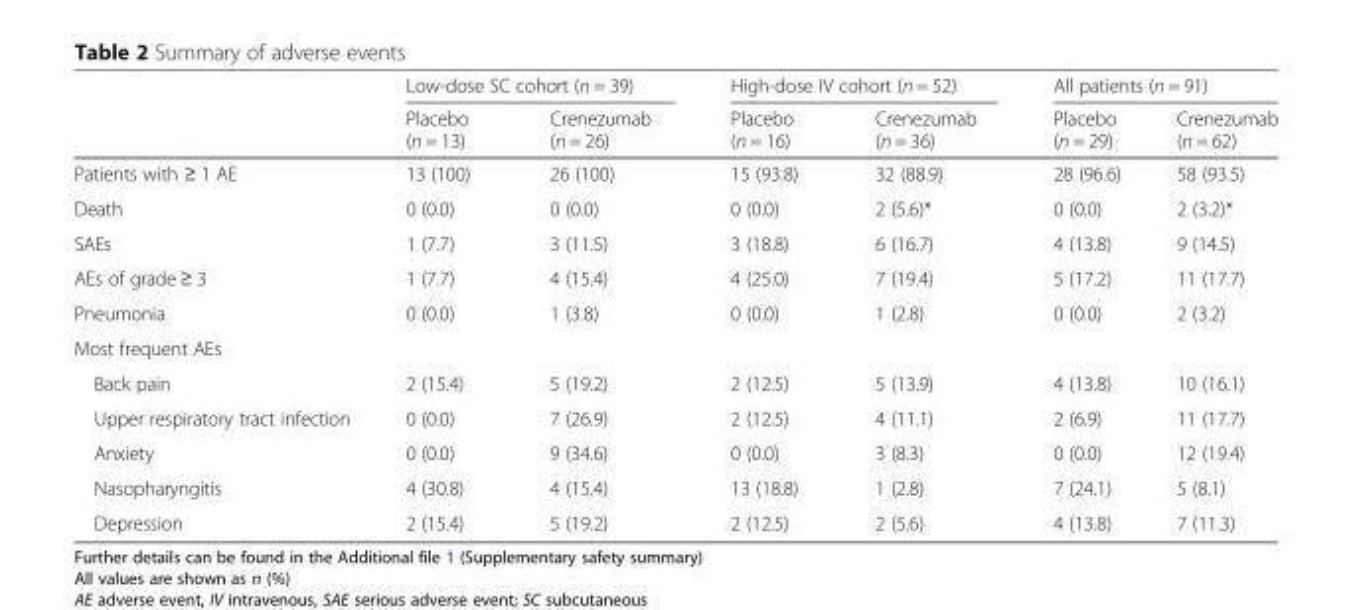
<table><thead><tr><td rowspan="2"></td><td colspan="2">Low-dose SC cohort (n = 39)</td><td colspan="2">High-dose IV cohort (n = 52)</td><td colspan="2">All patients (n = 91)</td></tr><tr><td>Placebo (n = 13)</td><td>Crenezumab (n = 26)</td><td>Placebo (n = 16)</td><td>Crenezumab (n = 36)</td><td>Placebo (n = 29)</td><td>Crenezumab (n = 62)</td></tr></thead><tbody><tr><td>Patients with ≥ 1 AE</td><td>13 (100)</td><td>26 (100)</td><td>15 (93.8)</td><td>32 (88.9)</td><td>28 (96.6)</td><td>58 (93.5)</td></tr><tr><td>Death</td><td>0 (0.0)</td><td>0 (0.0)</td><td>0 (0.0)</td><td>2 (5.6)*</td><td>0 (0.0)</td><td>2 (3.2)*</td></tr><tr><td>SAEs</td><td>1 (7.7)</td><td>3 (11.5)</td><td>3 (18.8)</td><td>6 (16.7)</td><td>4 (13.8)</td><td>9 (14.5)</td></tr><tr><td>AEs of grade ≥ 3</td><td>1 (7.7)</td><td>4 (15.4)</td><td>4 (25.0)</td><td>7 (19.4)</td><td>5 (17.2)</td><td>11 (17.7)</td></tr><tr><td>Pneumonia</td><td>0 (0.0)</td><td>1 (3.8)</td><td>0 (0.0)</td><td>1 (2.8)</td><td>0 (0.0)</td><td>2 (3.2)</td></tr><tr><td colspan="7">Most frequent AEs</td></tr><tr><td>Back pain</td><td>2 (15.4)</td><td>5 (19.2)</td><td>2 (12.5)</td><td>5 (13.9)</td><td>4 (13.8)</td><td>10 (16.1)</td></tr><tr><td>Upper respiratory tract infection</td><td>0 (0.0)</td><td>7 (26.9)</td><td>2 (12.5)</td><td>4 (11.1)</td><td>2 (6.9)</td><td>11 (17.7)</td></tr><tr><td>Anxiety</td><td>0 (0.0)</td><td>9 (34.6)</td><td>0 (0.0)</td><td>3 (8.3)</td><td>0 (0.0)</td><td>12 (19.4)</td></tr><tr><td>Nasopharyngitis</td><td>4 (30.8)</td><td>4 (15.4)</td><td>13 (18.8)</td><td>1 (2.8)</td><td>7 (24.1)</td><td>5 (8.1)</td></tr><tr><td>Depression</td><td>2 (15.4)</td><td>5 (19.2)</td><td>2 (12.5)</td><td>2 (5.6)</td><td>4 (13.8)</td><td>7 (11.3)</td></tr></tbody></table>